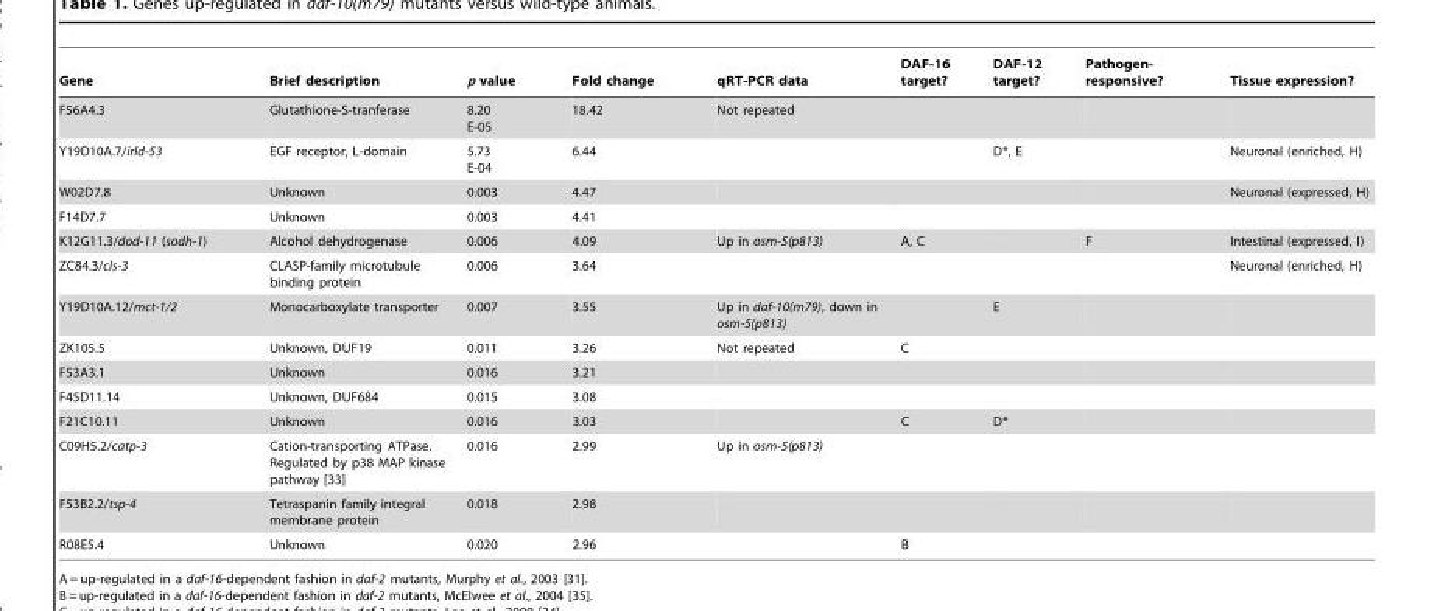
<table><thead><tr><td>Gene</td><td>Brief description</td><td>p value</td><td>Fold change</td><td>qRT-PCR data</td><td>DAF-16 target?</td><td>DAF-12 target?</td><td>Pathogen- responsive?</td><td>Tissue expression?</td></tr></thead><tbody><tr><td>F56A4.3</td><td>Glutathione-S-tranferase</td><td>8.20 E-05</td><td>18.42</td><td>Not repeated</td><td></td><td></td><td></td><td></td></tr><tr><td>Y19D10A.7/irld-53</td><td>EGF receptor, L-domain</td><td>5.73 E-04</td><td>6.44</td><td></td><td></td><td>D*, E</td><td></td><td>Neuronal (enriched, H)</td></tr><tr><td>W02D7.8</td><td>Unknown</td><td>0.003</td><td>4.47</td><td></td><td></td><td></td><td></td><td>Neuronal (expressed, H)</td></tr><tr><td>F14D7.7</td><td>Unknown</td><td>0.003</td><td>4.41</td><td></td><td></td><td></td><td></td><td></td></tr><tr><td>K12G11.3/dod-11 (sodh-1)</td><td>Alcohol dehydrogenase</td><td>0.006</td><td>4.09</td><td>Up in osm-5(p813)</td><td>A, C</td><td></td><td>F</td><td>Intestinal (expressed, I)</td></tr><tr><td>ZC84.3/cls-3</td><td>CLASP-family microtubule binding protein</td><td>0.006</td><td>3.64</td><td></td><td></td><td></td><td></td><td>Neuronal (enriched, H)</td></tr><tr><td>Y19D10A.12/mct-1/2</td><td>Monocarboxylate transporter</td><td>0.007</td><td>3.55</td><td>Up in daf-10(m79), down in osm-5(p813)</td><td></td><td>E</td><td></td><td></td></tr><tr><td>ZK105.5</td><td>Unknown, DUF19</td><td>0.011</td><td>3.26</td><td>Not repeated</td><td>C</td><td></td><td></td><td></td></tr><tr><td>F53A3.1</td><td>Unknown</td><td>0.016</td><td>3.21</td><td></td><td></td><td></td><td></td><td></td></tr><tr><td>F45D11.14</td><td>Unknown, DUF684</td><td>0.015</td><td>3.08</td><td></td><td></td><td></td><td></td><td></td></tr><tr><td>F21C10.11</td><td>Unknown</td><td>0.016</td><td>3.03</td><td></td><td>C</td><td>D*</td><td></td><td></td></tr><tr><td>C09H5.2/catp-3</td><td>Cation-transporting ATPase. Regulated by p38 MAP kinase pathway [33]</td><td>0.016</td><td>2.99</td><td>Up in osm-5(p813)</td><td></td><td></td><td></td><td></td></tr><tr><td>F53B2.2/tsp-4</td><td>Tetraspanin family integral membrane protein</td><td>0.018</td><td>2.98</td><td></td><td></td><td></td><td></td><td></td></tr><tr><td>R08E5.4</td><td>Unknown</td><td>0.020</td><td>2.96</td><td></td><td>B</td><td></td><td></td><td></td></tr></tbody></table>